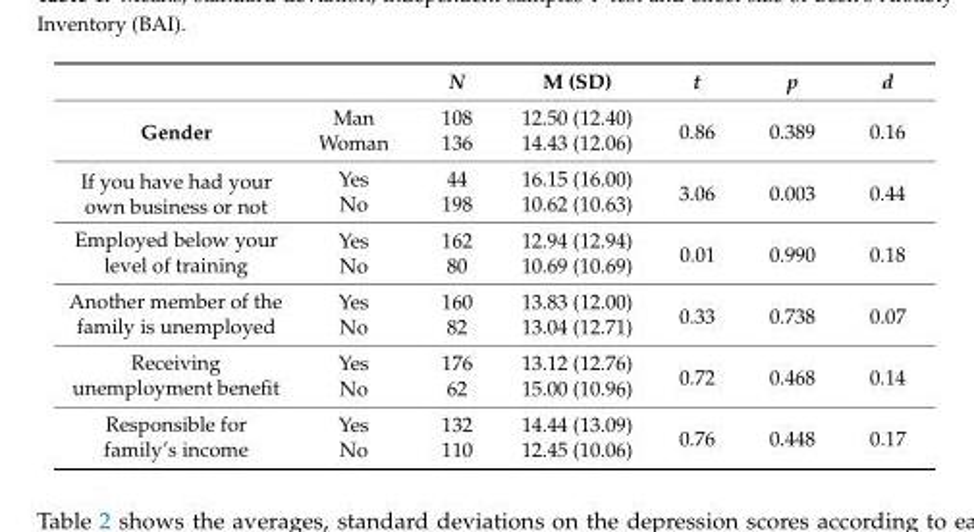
<table><thead><tr><td></td><td></td><td>N</td><td>M (SD)</td><td>t</td><td>p</td><td>d</td></tr></thead><tbody><tr><td rowspan="2">Gender</td><td>Man</td><td>108</td><td>12.50 (12.40)</td><td rowspan="2">0.86</td><td rowspan="2">0.389</td><td rowspan="2">0.16</td></tr><tr><td>Woman</td><td>136</td><td>14.43 (12.06)</td></tr><tr><td rowspan="2">If you have had your own business or not</td><td>Yes</td><td>44</td><td>16.15 (16.00)</td><td rowspan="2">3.06</td><td rowspan="2">0.003</td><td rowspan="2">0.44</td></tr><tr><td>No</td><td>198</td><td>10.62 (10.63)</td></tr><tr><td rowspan="2">Employed below your level of training</td><td>Yes</td><td>162</td><td>12.94 (12.94)</td><td rowspan="2">0.01</td><td rowspan="2">0.990</td><td rowspan="2">0.18</td></tr><tr><td>No</td><td>80</td><td>10.69 (10.69)</td></tr><tr><td rowspan="2">Another member of the family is unemployed</td><td>Yes</td><td>160</td><td>13.83 (12.00)</td><td rowspan="2">0.33</td><td rowspan="2">0.738</td><td rowspan="2">0.07</td></tr><tr><td>No</td><td>82</td><td>13.04 (12.71)</td></tr><tr><td rowspan="2">Receiving unemployment benefit</td><td>Yes</td><td>176</td><td>13.12 (12.76)</td><td rowspan="2">0.72</td><td rowspan="2">0.468</td><td rowspan="2">0.14</td></tr><tr><td>No</td><td>62</td><td>15.00 (10.96)</td></tr><tr><td rowspan="2">Responsible for family’s income</td><td>Yes</td><td>132</td><td>14.44 (13.09)</td><td rowspan="2">0.76</td><td rowspan="2">0.448</td><td rowspan="2">0.17</td></tr><tr><td>No</td><td>110</td><td>12.45 (10.06)</td></tr></tbody></table>